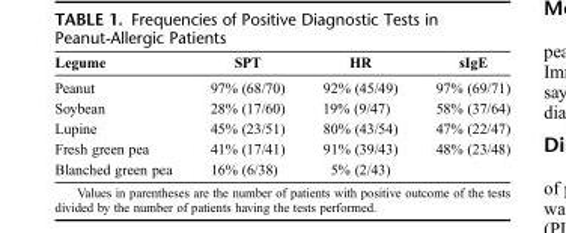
<table><thead><tr><td>Legume</td><td>SPT</td><td>HR</td><td>sIgE</td></tr></thead><tbody><tr><td>Peanut</td><td>97% (68/70)</td><td>92% (45/49)</td><td>97% (69/71)</td></tr><tr><td>Soybean</td><td>28% (17/60)</td><td>19% (9/47)</td><td>58% (37/64)</td></tr><tr><td>Lupine</td><td>45% (23/51)</td><td>80% (43/54)</td><td>47% (22/47)</td></tr><tr><td>Fresh green pea</td><td>41% (17/41)</td><td>91% (39/43)</td><td>48% (23/48)</td></tr><tr><td>Blanched green pea</td><td>16% (6/38)</td><td>5% (2/43)</td><td></td></tr></tbody></table>